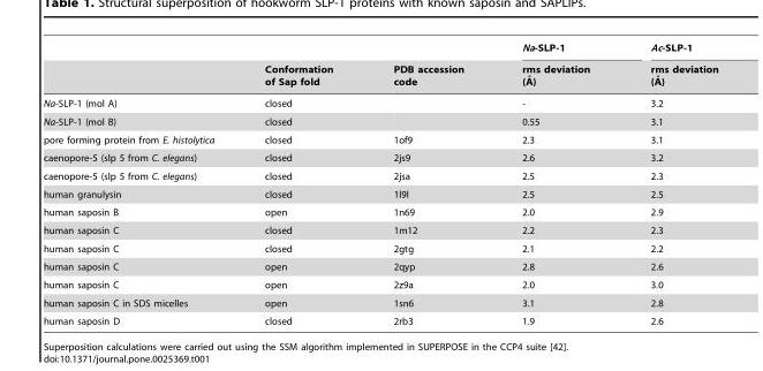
<table><thead><tr><td rowspan="2"></td><td rowspan="2">Conformation of Sap fold</td><td rowspan="2">PDB accession code</td><td rowspan="2">Na-SLP-1 rms deviation (A˚ )</td><td rowspan="2">Ac-SLP-1 rms deviation (A˚)</td></tr><tr></tr></thead><tbody><tr><td>Na-SLP-1 (mol A)</td><td>closed</td><td></td><td>-</td><td>3.2</td></tr><tr><td>Na-SLP-1 (mol B)</td><td>closed</td><td></td><td>0.55</td><td>3.1</td></tr><tr><td>pore forming protein from E. histolytica</td><td>closed</td><td>1of9</td><td>2.3</td><td>3.1</td></tr><tr><td>caenopore-5 (slp 5 from C. elegans)</td><td>closed</td><td>2js9</td><td>2.6</td><td>3.2</td></tr><tr><td>caenopore-5 (slp 5 from C. elegans)</td><td>closed</td><td>2jsa</td><td>2.5</td><td>2.3</td></tr><tr><td>human granulysin</td><td>closed</td><td>1l9l</td><td>2.5</td><td>2.5</td></tr><tr><td>human saposin B</td><td>open</td><td>1n69</td><td>2.0</td><td>2.9</td></tr><tr><td>human saposin C</td><td>closed</td><td>1m12</td><td>2.2</td><td>2.3</td></tr><tr><td>human saposin C</td><td>closed</td><td>2gtg</td><td>2.1</td><td>2.2</td></tr><tr><td>human saposin C</td><td>open</td><td>2qyp</td><td>2.8</td><td>2.6</td></tr><tr><td>human saposin C</td><td>open</td><td>2z9a</td><td>2.0</td><td>3.0</td></tr><tr><td>human saposin C in SDS micelles</td><td>open</td><td>1sn6</td><td>3.1</td><td>2.8</td></tr><tr><td>human saposin D</td><td>closed</td><td>2rb3</td><td>1.9</td><td>2.6</td></tr></tbody></table>